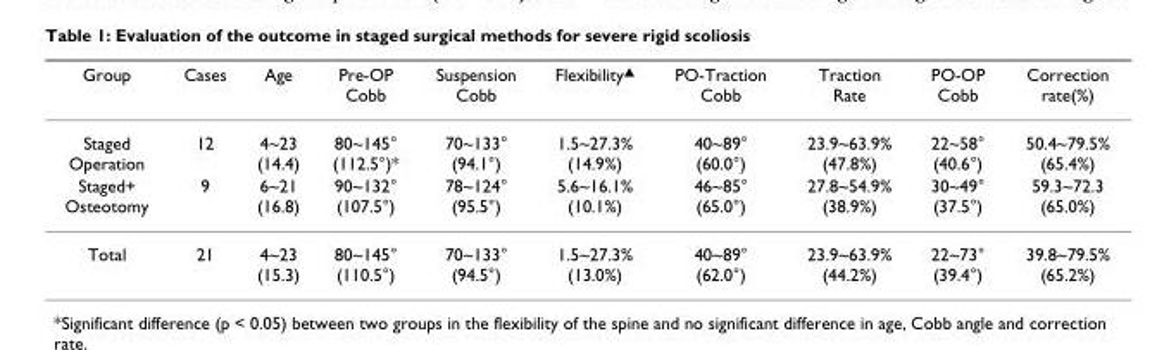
<table><thead><tr><td>Group</td><td>Cases</td><td>Age</td><td>Pre-OP Cobb</td><td>Suspension Cobb</td><td>Flexibility<sup>▲</sup></td><td>PO-Traction Cobb</td><td>Traction Rate</td><td>PO-OP Cobb</td><td>Correction rate(%)</td></tr></thead><tbody><tr><td>Staged Operation</td><td>12</td><td>4~23 (14.4)</td><td>80~145° (112.5°)*</td><td>70~133° (94.1°)</td><td>1.5~27.3% (14.9%)</td><td>40~89° (60.0°)</td><td>23.9~63.9% (47.8%)</td><td>22~58° (40.6°)</td><td>50.4~79.5% (65.4%)</td></tr><tr><td>Staged+ Osteotomy</td><td>9</td><td>6~21 (16.8)</td><td>90~132° (107.5°)</td><td>78~124° (95.5°)</td><td>5.6~16.1% (10.1%)</td><td>46~85° (65.0°)</td><td>27.8~54.9% (38.9%)</td><td>30~49° (37.5°)</td><td>59.3~72.3 (65.0%)</td></tr><tr><td>Total</td><td>21</td><td>4~23 (15.3)</td><td>80~145° (110.5°)</td><td>70~133° (94.5°)</td><td>1.5~27.3% (13.0%)</td><td>40~89° (62.0°)</td><td>23.9~63.9% (44.2%)</td><td>22~73° (39.4°)</td><td>39.8~79.5% (65.2%)</td></tr></tbody></table>